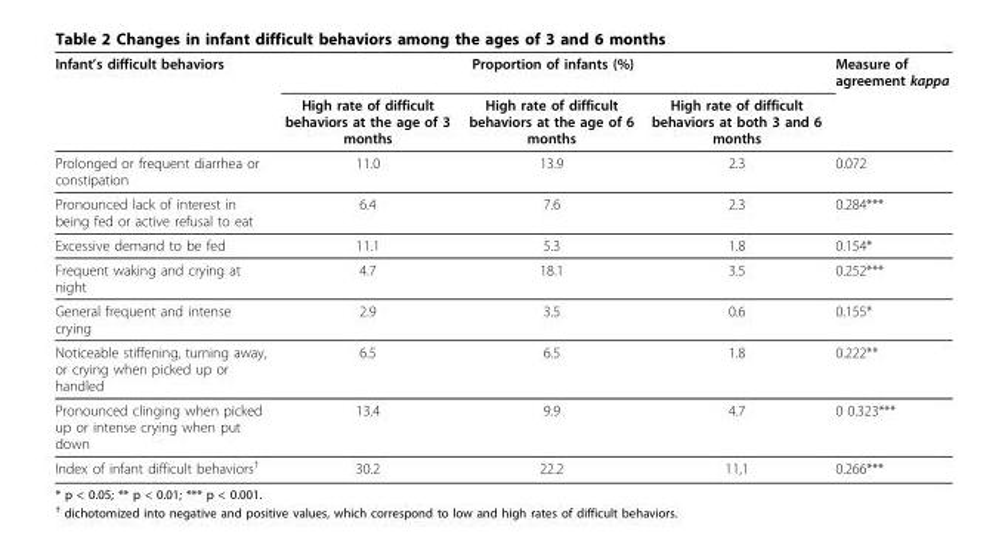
<table><thead><tr><td rowspan="2">Infant’s difficult behaviors</td><td colspan="3">Proportion of infants (%)</td><td rowspan="2">Measure of agreement kappa</td></tr><tr><td>High rate of difficult behaviors at the age of 3 months</td><td>High rate of difficult behaviors at the age of 6 months</td><td>High rate of difficult behaviors at both 3 and 6 months</td></tr></thead><tbody><tr><td>Prolonged or frequent diarrhea or constipation</td><td>11.0</td><td>13.9</td><td>2.3</td><td>0.072</td></tr><tr><td>Pronounced lack of interest in being fed or active refusal to eat</td><td>6.4</td><td>7.6</td><td>2.3</td><td>0.284***</td></tr><tr><td>Excessive demand to be fed</td><td>11.1</td><td>5.3</td><td>1.8</td><td>0.154*</td></tr><tr><td>Frequent waking and crying at night</td><td>4.7</td><td>18.1</td><td>3.5</td><td>0.252***</td></tr><tr><td>General frequent and intense crying</td><td>2.9</td><td>3.5</td><td>0.6</td><td>0.155*</td></tr><tr><td>Noticeable stiffening, turning away, or crying when picked up or handled</td><td>6.5</td><td>6.5</td><td>1.8</td><td>0.222**</td></tr><tr><td>Pronounced clinging when picked up or intense crying when put down</td><td>13.4</td><td>9.9</td><td>4.7</td><td>0 0.323***</td></tr><tr><td>Index of infant difficult behaviors<sup>†</sup></td><td>30.2</td><td>22.2</td><td>11,1</td><td>0.266***</td></tr></tbody></table>